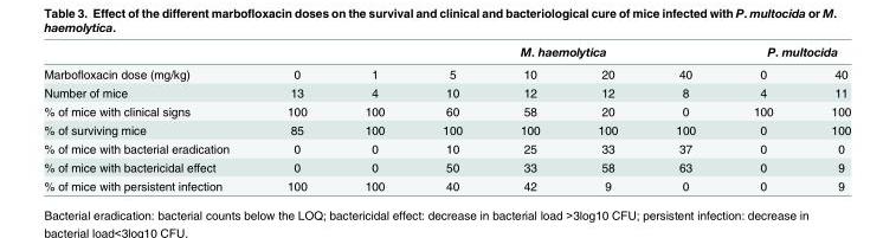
<table><thead><tr><td rowspan="2">Marbofloxacin dose (mg/kg)</td><td rowspan="2">0</td><td rowspan="2">1</td><td rowspan="2">5</td><td colspan="2">M. haemolytica</td><td rowspan="2">40</td><td colspan="2">P. multocida</td></tr><tr><td>10</td><td>20</td><td>0</td><td>40</td></tr></thead><tbody><tr><td>Number of mice</td><td>13</td><td>4</td><td>10</td><td>12</td><td>12</td><td>8</td><td>4</td><td>11</td></tr><tr><td>% of mice with clinical signs</td><td>100</td><td>100</td><td>60</td><td>58</td><td>20</td><td>0</td><td>100</td><td>100</td></tr><tr><td>% of surviving mice</td><td>85</td><td>100</td><td>100</td><td>100</td><td>100</td><td>100</td><td>0</td><td>100</td></tr><tr><td>% of mice with bacterial eradication</td><td>0</td><td>0</td><td>10</td><td>25</td><td>33</td><td>37</td><td>0</td><td>0</td></tr><tr><td>% of mice with bactericidal effect</td><td>0</td><td>0</td><td>50</td><td>33</td><td>58</td><td>63</td><td>0</td><td>9</td></tr><tr><td>% of mice with persistent infection</td><td>100</td><td>100</td><td>40</td><td>42</td><td>9</td><td>0</td><td>0</td><td>9</td></tr></tbody></table>